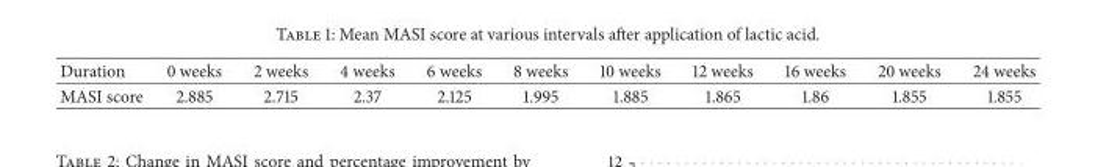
<table><thead><tr><td>Duration</td><td>0 weeks</td><td>2 weeks</td><td>4 weeks</td><td>6 weeks</td><td>8 weeks</td><td>10 weeks</td><td>12 weeks</td><td>16 weeks</td><td>20 weeks</td><td>24 weeks</td></tr></thead><tbody><tr><td>MASI score</td><td>2.885</td><td>2.715</td><td>2.37</td><td>2.125</td><td>1.995</td><td>1.885</td><td>1.865</td><td>1.86</td><td>1.855</td><td>1.855</td></tr></tbody></table>